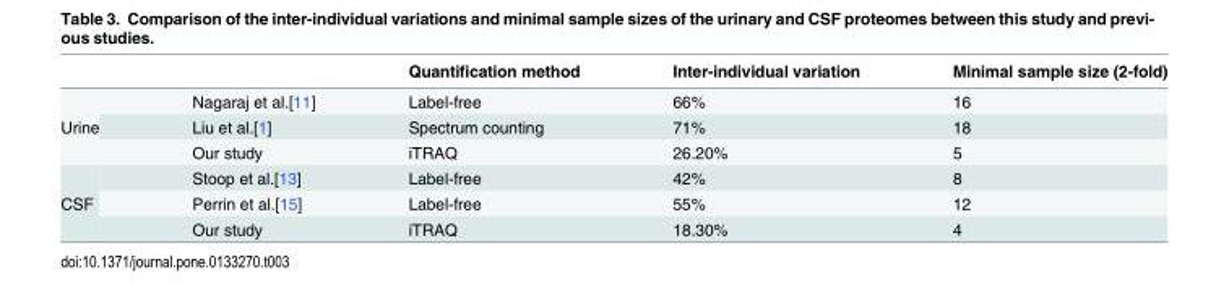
<table><thead><tr><td></td><td></td><td>Quantification method</td><td>Inter-individual variation</td><td>Minimal sample size (2-fold)</td></tr></thead><tbody><tr><td rowspan="3">Urine</td><td>Nagaraj et al.[11]</td><td>Label-free</td><td>66%</td><td>16</td></tr><tr><td>Liu et al.[1]</td><td>Spectrum counting</td><td>71%</td><td>18</td></tr><tr><td>Our study</td><td>iTRAQ</td><td>26.20%</td><td>5</td></tr><tr><td rowspan="3">CSF</td><td>Stoop et al.[13]</td><td>Label-free</td><td>42%</td><td>8</td></tr><tr><td>Perrin et al.[15]</td><td>Label-free</td><td>55%</td><td>12</td></tr><tr><td>Our study</td><td>iTRAQ</td><td>18.30%</td><td>4</td></tr></tbody></table>